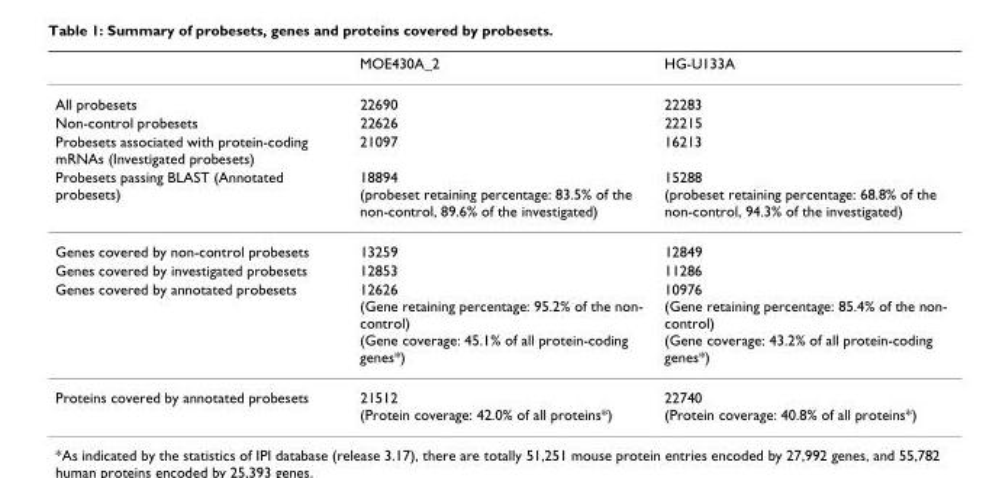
<table><thead><tr><td></td><td>MOE430A_2</td><td>HG-U133A</td></tr></thead><tbody><tr><td>All probesets</td><td>22690</td><td>22283</td></tr><tr><td>Non-control probesets</td><td>22626</td><td>22215</td></tr><tr><td>Probesets associated with protein-coding mRNAs (Investigated probesets)</td><td>21097</td><td>16213</td></tr><tr><td>Probesets passing BLAST (Annotated probesets)</td><td>18894 (probeset retaining percentage: 83.5% of the non-control, 89.6% of the investigated)</td><td>15288 (probeset retaining percentage: 68.8% of the non-control, 94.3% of the investigated)</td></tr><tr><td>Genes covered by non-control probesets</td><td>13259</td><td>12849</td></tr><tr><td>Genes covered by investigated probesets</td><td>12853</td><td>11286</td></tr><tr><td>Genes covered by annotated probesets</td><td>12626 (Gene retaining percentage: 95.2% of the non- control) (Gene coverage: 45.1% of all protein-coding genes*)</td><td>10976 (Gene retaining percentage: 85.4% of the non- control) (Gene coverage: 43.2% of all protein-coding genes*)</td></tr><tr><td>Proteins covered by annotated probesets</td><td>21512 (Protein coverage: 42.0% of all proteins*)</td><td>22740 (Protein coverage: 40.8% of all proteins*)</td></tr></tbody></table>